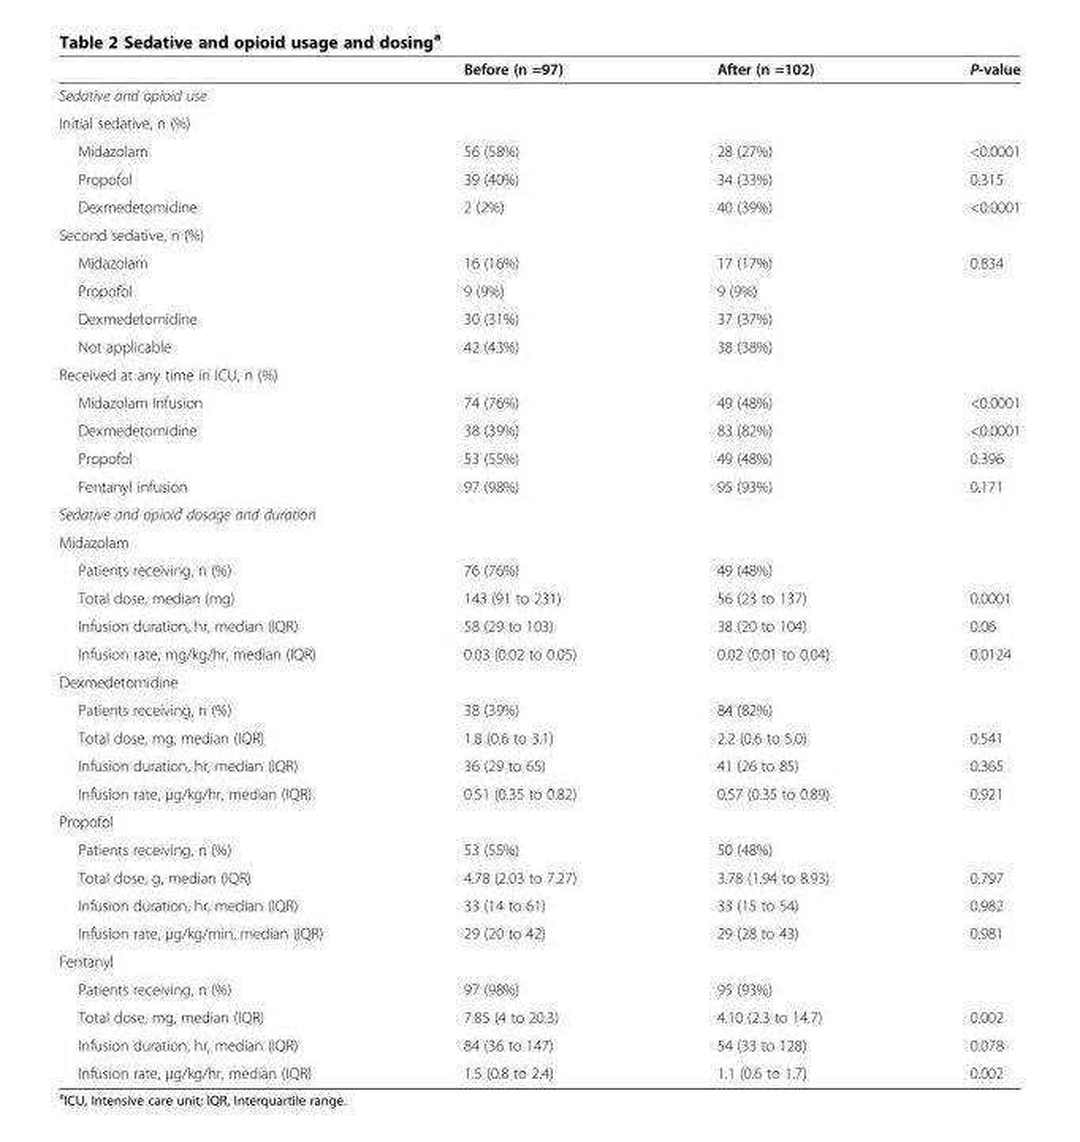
<table><thead><tr><td></td><td>Before (n =97)</td><td>After (n =102)</td><td>P-value</td></tr></thead><tbody><tr><td colspan="4">Sedative and opioid use</td></tr><tr><td colspan="4">Initial sedative, n (%)</td></tr><tr><td>Midazolam</td><td>56 (58%)</td><td>28 (27%)</td><td>&lt;0.0001</td></tr><tr><td>Propofol</td><td>39 (40%)</td><td>34 (33%)</td><td>0.315</td></tr><tr><td>Dexmedetomidine</td><td>2 (2%)</td><td>40 (39%)</td><td>&lt;0.0001</td></tr><tr><td colspan="4">Second sedative, n (%)</td></tr><tr><td>Midazolam</td><td>16 (16%)</td><td>17 (17%)</td><td>0.834</td></tr><tr><td>Propofol</td><td>9 (9%)</td><td>9 (9%)</td><td></td></tr><tr><td>Dexmedetomidine</td><td>30 (31%)</td><td>37 (37%)</td><td></td></tr><tr><td>Not applicable</td><td>42 (43%)</td><td>38 (38%)</td><td></td></tr><tr><td colspan="4">Received at any time in ICU, n (%)</td></tr><tr><td>Midazolam Infusion</td><td>74 (76%)</td><td>49 (48%)</td><td>&lt;0.0001</td></tr><tr><td>Dexmedetomidine</td><td>38 (39%)</td><td>83 (82%)</td><td>&lt;0.0001</td></tr><tr><td>Propofol</td><td>53 (55%)</td><td>49 (48%)</td><td>0.396</td></tr><tr><td>Fentanyl infusion</td><td>97 (98%)</td><td>95 (93%)</td><td>0.171</td></tr><tr><td colspan="4">Sedative and opioid dosage and duration</td></tr><tr><td colspan="4">Midazolam</td></tr><tr><td>Patients receiving, n (%)</td><td>76 (76%)</td><td>49 (48%)</td><td></td></tr><tr><td>Total dose, median (mg)</td><td>143 (91 to 231)</td><td>56 (23 to 137)</td><td>0.0001</td></tr><tr><td>Infusion duration, hr, median (IQR)</td><td>58 (29 to 103)</td><td>38 (20 to 104)</td><td>0.06</td></tr><tr><td>Infusion rate, mg/kg/hr, median (IQR)</td><td>0.03 (0.02 to 0.05)</td><td>0.02 (0.01 to 0.04)</td><td>0.0124</td></tr><tr><td colspan="4">Dexmedetomidine</td></tr><tr><td>Patients receiving, n (%)</td><td>38 (39%)</td><td>84 (82%)</td><td></td></tr><tr><td>Total dose, mg, median (IQR)</td><td>1.8 (0.6 to 3.1)</td><td>2.2 (0.6 to 5.0)</td><td>0.541</td></tr><tr><td>Infusion duration, hr, median (IQR)</td><td>36 (29 to 65)</td><td>41 (26 to 85)</td><td>0.365</td></tr><tr><td>Infusion rate, μg/kg/hr, median (IQR)</td><td>0.51 (0.35 to 0.82)</td><td>0.57 (0.35 to 0.89)</td><td>0.921</td></tr><tr><td colspan="4">Propofol</td></tr><tr><td>Patients receiving, n (%)</td><td>53 (55%)</td><td>50 (48%)</td><td></td></tr><tr><td>Total dose, g, median (IQR)</td><td>4.78 (2.03 to 7.27)</td><td>3.78 (1.94 to 8.93)</td><td>0.797</td></tr><tr><td>Infusion duration, hr, median (IQR)</td><td>33 (14 to 61)</td><td>33 (15 to 54)</td><td>0.982</td></tr><tr><td>Infusion rate, μg/kg/min, median (IQR)</td><td>29 (20 to 42)</td><td>29 (28 to 43)</td><td>0.981</td></tr><tr><td colspan="4">Fentanyl</td></tr><tr><td>Patients receiving, n (%)</td><td>97 (98%)</td><td>95 (93%)</td><td></td></tr><tr><td>Total dose, mg, median (IQR)</td><td>7.85 (4 to 20.3)</td><td>4.10 (2.3 to 14.7)</td><td>0.002</td></tr><tr><td>Infusion duration, hr, median (IQR)</td><td>84 (36 to 147)</td><td>54 (33 to 128)</td><td>0.078</td></tr><tr><td>Infusion rate, μg/kg/hr, median (IQR)</td><td>1.5 (0.8 to 2.4)</td><td>1.1 (0.6 to 1.7)</td><td>0.002</td></tr></tbody></table>